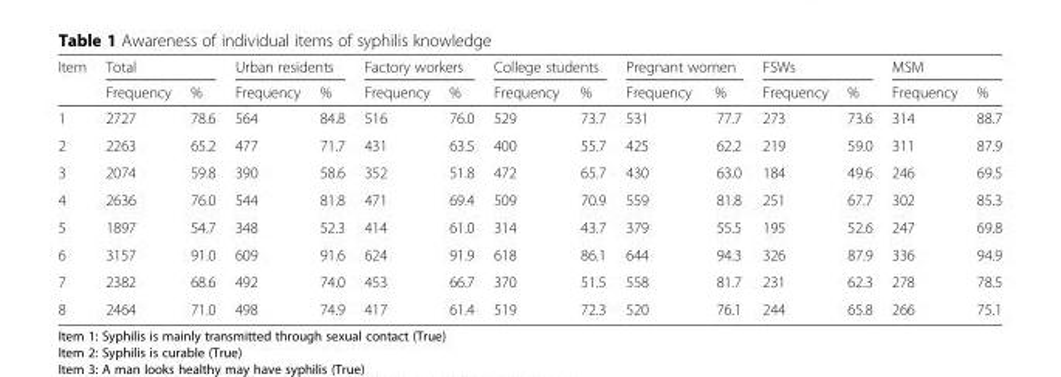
<table><thead><tr><td rowspan="2">Item</td><td colspan="2">Total</td><td colspan="2">Urban residents</td><td colspan="2">Factory workers</td><td colspan="2">College students</td><td colspan="2">Pregnant women</td><td colspan="2">FSWs</td><td colspan="2">MSM</td></tr><tr><td>Frequency</td><td>%</td><td>Frequency</td><td>%</td><td>Frequency</td><td>%</td><td>Frequency</td><td>%</td><td>Frequency</td><td>%</td><td>Frequency</td><td>%</td><td>Frequency</td><td>%</td></tr></thead><tbody><tr><td>1</td><td>2727</td><td>78.6</td><td>564</td><td>84.8</td><td>516</td><td>76.0</td><td>529</td><td>73.7</td><td>531</td><td>77.7</td><td>273</td><td>73.6</td><td>314</td><td>88.7</td></tr><tr><td>2</td><td>2263</td><td>65.2</td><td>477</td><td>71.7</td><td>431</td><td>63.5</td><td>400</td><td>55.7</td><td>425</td><td>62.2</td><td>219</td><td>59.0</td><td>311</td><td>87.9</td></tr><tr><td>3</td><td>2074</td><td>59.8</td><td>390</td><td>58.6</td><td>352</td><td>51.8</td><td>472</td><td>65.7</td><td>430</td><td>63.0</td><td>184</td><td>49.6</td><td>246</td><td>69.5</td></tr><tr><td>4</td><td>2636</td><td>76.0</td><td>544</td><td>81.8</td><td>471</td><td>69.4</td><td>509</td><td>70.9</td><td>559</td><td>81.8</td><td>251</td><td>67.7</td><td>302</td><td>85.3</td></tr><tr><td>5</td><td>1897</td><td>54.7</td><td>348</td><td>52.3</td><td>414</td><td>61.0</td><td>314</td><td>43.7</td><td>379</td><td>55.5</td><td>195</td><td>52.6</td><td>247</td><td>69.8</td></tr><tr><td>6</td><td>3157</td><td>91.0</td><td>609</td><td>91.6</td><td>624</td><td>91.9</td><td>618</td><td>86.1</td><td>644</td><td>94.3</td><td>326</td><td>87.9</td><td>336</td><td>94.9</td></tr><tr><td>7</td><td>2382</td><td>68.6</td><td>492</td><td>74.0</td><td>453</td><td>66.7</td><td>370</td><td>51.5</td><td>558</td><td>81.7</td><td>231</td><td>62.3</td><td>278</td><td>78.5</td></tr><tr><td>8</td><td>2464</td><td>71.0</td><td>498</td><td>74.9</td><td>417</td><td>61.4</td><td>519</td><td>72.3</td><td>520</td><td>76.1</td><td>244</td><td>65.8</td><td>266</td><td>75.1</td></tr></tbody></table>